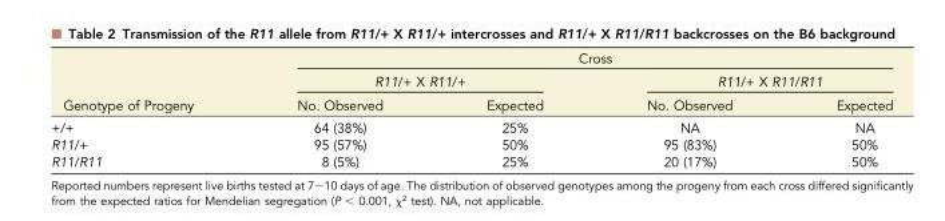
<table><thead><tr><td rowspan="3">Genotype of Progeny</td><td colspan="4">Cross</td></tr><tr><td colspan="2">R11/+ X R11/+</td><td colspan="2">R11/+ X R11/R11</td></tr><tr><td>No. Observed</td><td>Expected</td><td>No. Observed</td><td>Expected</td></tr></thead><tbody><tr><td>+/+</td><td>64 (38%)</td><td>25%</td><td>NA</td><td>NA</td></tr><tr><td>R11/+</td><td>95 (57%)</td><td>50%</td><td>95 (83%)</td><td>50%</td></tr><tr><td>R11/R11</td><td>8 (5%)</td><td>25%</td><td>20 (17%)</td><td>50%</td></tr></tbody></table>